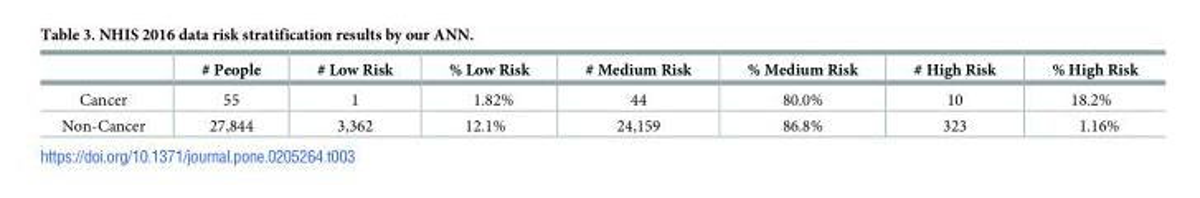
<table><thead><tr><td></td><td># People</td><td># Low Risk</td><td>% Low Risk</td><td># Medium Risk</td><td>% Medium Risk</td><td># High Risk</td><td>% High Risk</td></tr></thead><tbody><tr><td>Cancer</td><td>55</td><td>1</td><td>1.82%</td><td>44</td><td>80.0%</td><td>10</td><td>18.2%</td></tr><tr><td>Non-Cancer</td><td>27,844</td><td>3,362</td><td>12.1%</td><td>24,159</td><td>86.8%</td><td>323</td><td>1.16%</td></tr></tbody></table>